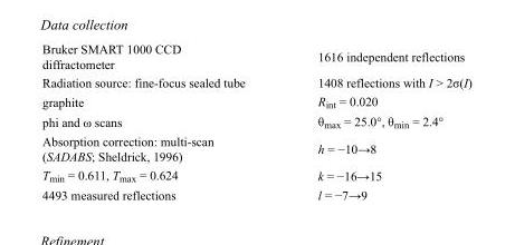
<table><tbody><tr><td>Bruker SMART 1000 CCD diffractometer</td><td>1616 independent reflections</td></tr><tr><td>Radiation source: fine-focus sealed tube</td><td>1408 reflections with I &gt; 2σ(I)</td></tr><tr><td>graphite</td><td>R<sub>int</sub> = 0.020</td></tr><tr><td>phi and ω scans</td><td>θ<sub>max</sub> = 25.0°, θ<sub>min</sub> = 2.4°</td></tr><tr><td>Absorption correction: multi-scan (SADABS; Sheldrick, 1996)</td><td>h = −10→8</td></tr><tr><td>T<sub>min</sub> = 0.611, T<sub>max</sub> = 0.624</td><td>k = −16→15</td></tr><tr><td>4493 measured reflections</td><td>l = −7→9</td></tr></tbody></table>